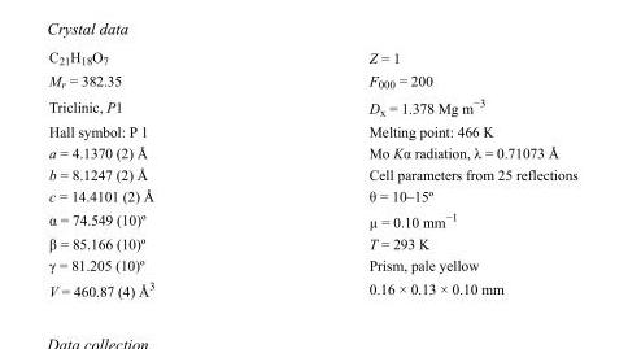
<table><tbody><tr><td>C<sub>21</sub>H<sub>18</sub>O<sub>7</sub></td><td>Z = 1</td></tr><tr><td>M<sub>r</sub> = 382.35</td><td>F000 = 200</td></tr><tr><td>Triclinic, P1</td><td>D<sub>x</sub> = 1.378 Mg m<sup>−3</sup></td></tr><tr><td>Hall symbol: P 1</td><td>Melting point: 466 K</td></tr><tr><td>a = 4.1370 (2) Å</td><td>Mo Kα radiation, λ = 0.71073 Å</td></tr><tr><td>b = 8.1247 (2) Å</td><td>Cell parameters from 25 reflections</td></tr><tr><td>c = 14.4101 (2) Å</td><td>θ = 10–15º</td></tr><tr><td>α = 74.549 (10)º</td><td>µ = 0.10 mm<sup>−1</sup></td></tr><tr><td>β = 85.166 (10)º</td><td>T = 293 K</td></tr><tr><td>γ = 81.205 (10)º</td><td>Prism, pale yellow</td></tr><tr><td>V = 460.87 (4) Å<sup>3</sup></td><td>0.16 × 0.13 × 0.10 mm</td></tr></tbody></table>